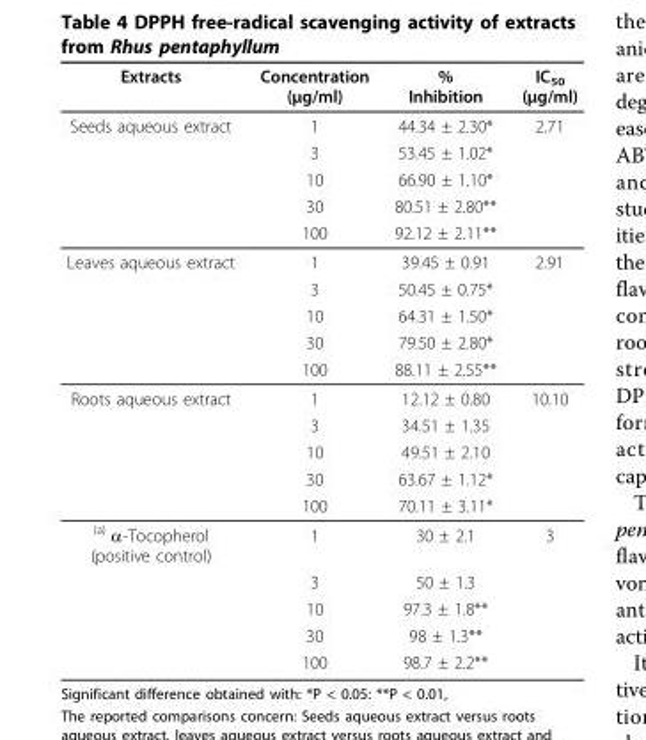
<table><thead><tr><td>Extracts</td><td>Concentration (μg/ml)</td><td>% Inhibition</td><td>IC<sub>50</sub> (μg/ml)</td></tr></thead><tbody><tr><td rowspan="5">Seeds aqueous extract</td><td>1</td><td>44.34 ± 2.30*</td><td>2.71</td></tr><tr><td>3</td><td>53.45 ± 1.02*</td><td></td></tr><tr><td>10</td><td>66.90 ± 1.10*</td><td></td></tr><tr><td>30</td><td>80.51 ± 2.80**</td><td></td></tr><tr><td>100</td><td>92.12 ± 2.11**</td><td></td></tr><tr><td rowspan="5">Leaves aqueous extract</td><td>1</td><td>39.45 ± 0.91</td><td>2.91</td></tr><tr><td>3</td><td>50.45 ± 0.75*</td><td></td></tr><tr><td>10</td><td>64.31 ± 1.50*</td><td></td></tr><tr><td>30</td><td>79.50 ± 2.80*</td><td></td></tr><tr><td>100</td><td>88.11 ± 2.55**</td><td></td></tr><tr><td rowspan="5">Roots aqueous extract</td><td>1</td><td>12.12 ± 0.80</td><td>10.10</td></tr><tr><td>3</td><td>34.51 ± 1.35</td><td></td></tr><tr><td>10</td><td>49.51 ± 2.10</td><td></td></tr><tr><td>30</td><td>63.67 ± 1.12*</td><td></td></tr><tr><td>100</td><td>70.11 ± 3.11*</td><td></td></tr><tr><td rowspan="5"><sup>(a)</sup> α-Tocopherol (positive control)</td><td>1</td><td>30 ± 2.1</td><td>3</td></tr><tr><td>3</td><td>50 ± 1.3</td><td></td></tr><tr><td>10</td><td>97.3 ± 1.8**</td><td></td></tr><tr><td>30</td><td>98 ± 1.3**</td><td></td></tr><tr><td>100</td><td>98.7 ± 2.2**</td><td></td></tr></tbody></table>